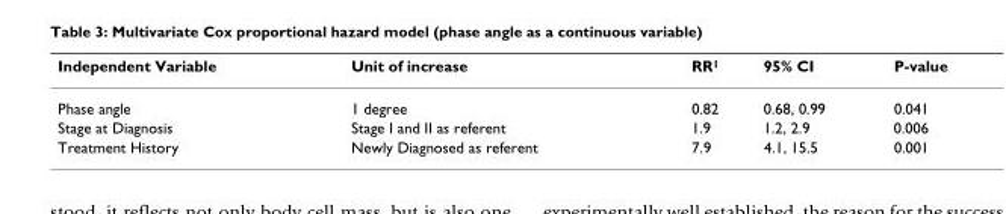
<table><thead><tr><td>Independent Variable</td><td>Unit of increase</td><td>RR<sup>1</sup></td><td>95% CI</td><td>P-value</td></tr></thead><tbody><tr><td>Phase angle</td><td>1 degree</td><td>0.82</td><td>0.68, 0.99</td><td>0.041</td></tr><tr><td>Stage at Diagnosis</td><td>Stage I and II as referent</td><td>1.9</td><td>1.2, 2.9</td><td>0.006</td></tr><tr><td>Treatment History</td><td>Newly Diagnosed as referent</td><td>7.9</td><td>4.1, 15.5</td><td>0.001</td></tr></tbody></table>